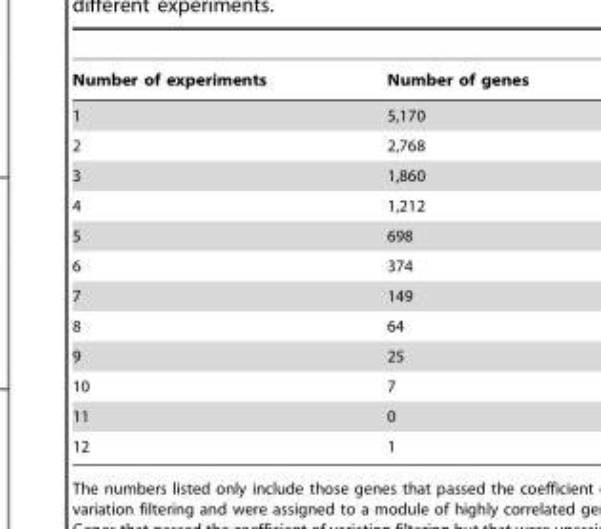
<table><thead><tr><td>Number of experiments</td><td>Number of genes</td></tr></thead><tbody><tr><td>1</td><td>5,170</td></tr><tr><td>2</td><td>2,768</td></tr><tr><td>3</td><td>1,860</td></tr><tr><td>4</td><td>1,212</td></tr><tr><td>5</td><td>698</td></tr><tr><td>6</td><td>374</td></tr><tr><td>7</td><td>149</td></tr><tr><td>8</td><td>64</td></tr><tr><td>9</td><td>25</td></tr><tr><td>10</td><td>7</td></tr><tr><td>11</td><td>0</td></tr><tr><td>12</td><td>1</td></tr></tbody></table>